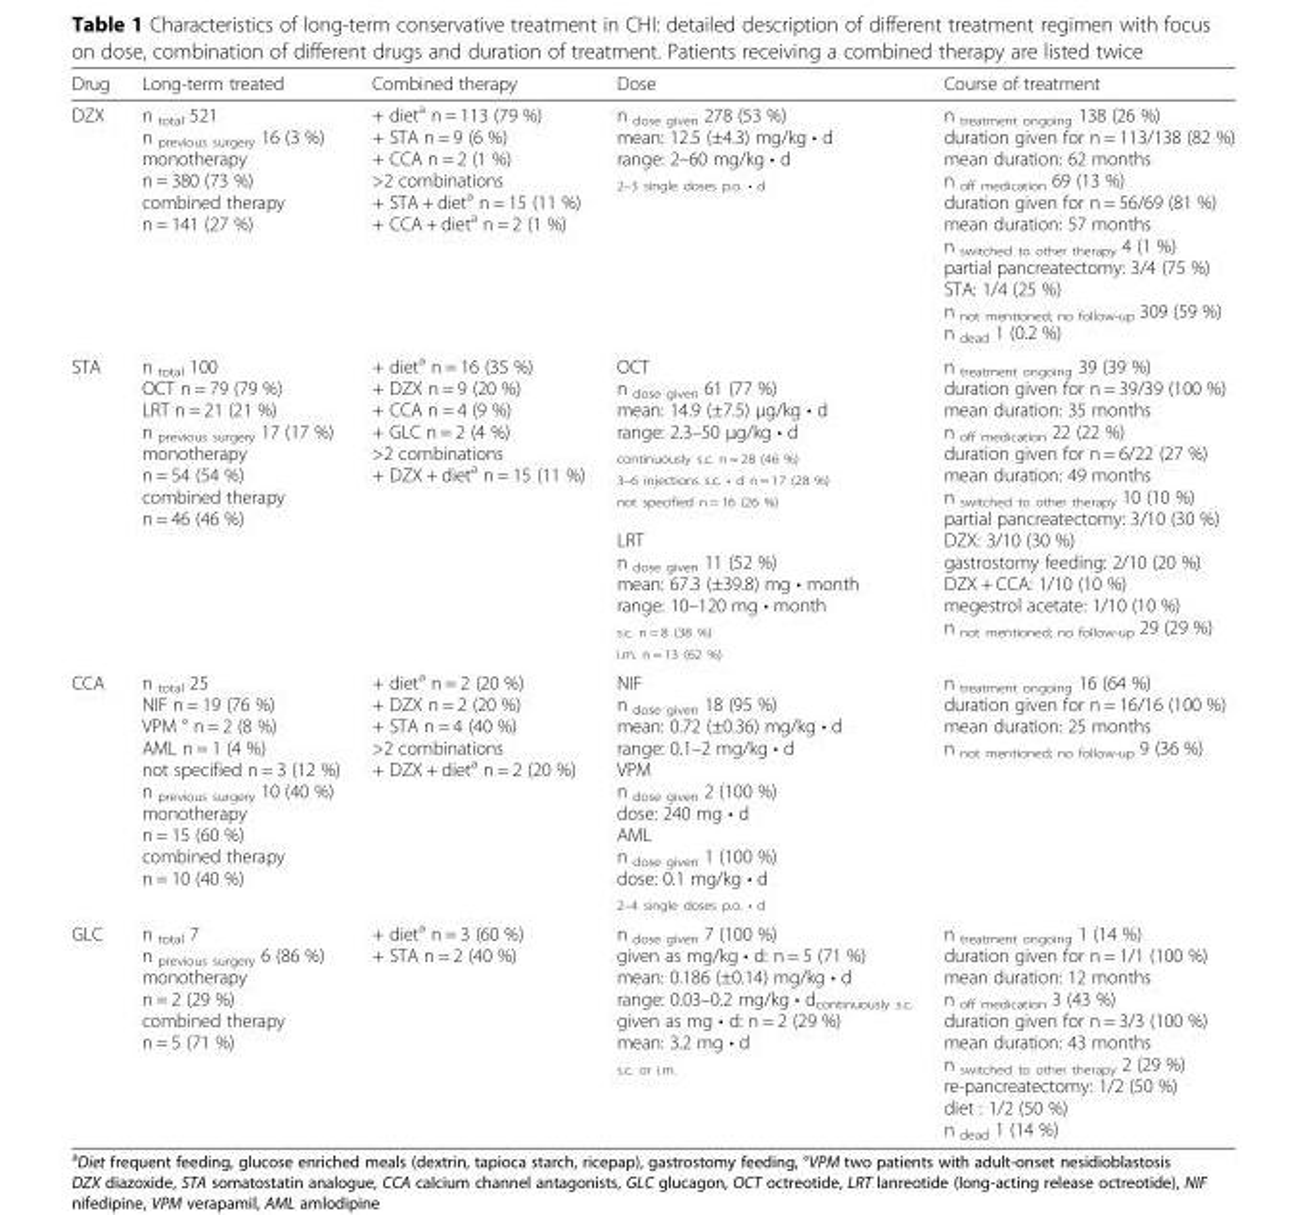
<table><thead><tr><td>Drug</td><td>Long-term treated</td><td>Combined therapy</td><td>Dose</td><td>Course of treatment</td></tr></thead><tbody><tr><td>DZX</td><td>n <sub>total</sub> 521 n <sub>previous surgery</sub> 16 (3 %) monotherapy n = 380 (73 %) combined therapy n = 141 (27 %)</td><td>+ diet<sup>a</sup> n = 113 (79 %) + STA n = 9 (6 %) + CCA n = 2 (1 %) &gt;2 combinations + STA + diet<sup>a</sup> n = 15 (11 %) + CCA + diet<sup>a</sup> n = 2 (1 %)</td><td>n <sub>dose given</sub> 278 (53 %) mean: 12.5 (±4.3) mg/kg • d range: 2–60 mg/kg • d <sub>2–3 single doses p.o. • d</sub></td><td>n <sub>treatment ongoing</sub> 138 (26 %) duration given for n = 113/138 (82 %) mean duration: 62 months n <sub>off medication</sub> 69 (13 %) duration given for n = 56/69 (81 %) mean duration: 57 months n <sub>switched to other therapy</sub> 4 (1 %) partial pancreatectomy: 3/4 (75 %) STA: 1/4 (25 %) n <sub>not mentioned; no follow-up</sub> 309 (59 %) n <sub>dead</sub> 1 (0.2 %)</td></tr><tr><td>STA</td><td>n <sub>total</sub> 100 OCT n = 79 (79 %) LRT n = 21 (21 %) n <sub>previous surgery</sub> 17 (17 %) monotherapy n = 54 (54 %) combined therapy n = 46 (46 %)</td><td>+ diet<sup>a</sup> n = 16 (35 %) + DZX n = 9 (20 %) + CCA n = 4 (9 %) + GLC n = 2 (4 %) &gt;2 combinations + DZX + diet<sup>a</sup> n = 15 (11 %)</td><td>OCT n <sub>dose given</sub> 61 (77 %) mean: 14.9 (±7.5) μg/kg • d range: 2.3–50 μg/kg • d <sub>continuously s.c. n = 28 (46 %) 3–6 injections s.c. • d n = 17 (28 %) not specified n = 16 (26 %)</sub> LRT n <sub>dose given</sub> 11 (52 %) mean: 67.3 (±39.8) mg • month range: 10–120 mg • month <sub>s.c. n = 8 (38 %) i.m. n = 13 (62 %)</sub></td><td>n <sub>treatment ongoing</sub> 39 (39 %) duration given for n = 39/39 (100 %) mean duration: 35 months n <sub>off medication</sub> 22 (22 %) duration given for n = 6/22 (27 %) mean duration: 49 months n <sub>switched to other therapy</sub> 10 (10 %) partial pancreatectomy: 3/10 (30 %) DZX: 3/10 (30 %) gastrostomy feeding: 2/10 (20 %) DZX + CCA: 1/10 (10 %) megestrol acetate: 1/10 (10 %) n <sub>not mentioned; no follow-up</sub> 29 (29 %)</td></tr><tr><td>CCA</td><td>n <sub>total</sub> 25 NIF n = 19 (76 %) VPM ° n = 2 (8 %) AML n = 1 (4 %) not specified n = 3 (12 %) n <sub>previous surgery</sub> 10 (40 %) monotherapy n = 15 (60 %) combined therapy n = 10 (40 %)</td><td>+ diet<sup>a</sup> n = 2 (20 %) + DZX n = 2 (20 %) + STA n = 4 (40 %) &gt;2 combinations + DZX + diet<sup>a</sup> n = 2 (20 %)</td><td>NIF n <sub>dose given</sub> 18 (95 %) mean: 0.72 (±0.36) mg/kg • d range: 0.1–2 mg/kg • d VPM n <sub>dose given</sub> 2 (100 %) dose: 240 mg • d AML n <sub>dose given</sub> 1 (100 %) dose: 0.1 mg/kg • d <sub>2–4 single doses p.o. • d</sub></td><td>n <sub>treatment ongoing</sub> 16 (64 %) duration given for n = 16/16 (100 %) mean duration: 25 months n <sub>not mentioned; no follow-up</sub> 9 (36 %)</td></tr><tr><td>GLC</td><td>n <sub>total</sub> 7 n <sub>previous surgery</sub> 6 (86 %) monotherapy n = 2 (29 %) combined therapy n = 5 (71 %)</td><td>+ diet<sup>a</sup> n = 3 (60 %) + STA n = 2 (40 %)</td><td>n <sub>dose given</sub> 7 (100 %) given as mg/kg • d: n = 5 (71 %) mean: 0.186 (±0.14) mg/kg • d range: 0.03–0.2 mg/kg • d<sub>continuously s.c.</sub> given as mg • d: n = 2 (29 %) mean: 3.2 mg • d <sub>s.c. or i.m.</sub></td><td>n <sub>treatment ongoing</sub> 1 (14 %) duration given for n = 1/1 (100 %) mean duration: 12 months n <sub>off medication</sub> 3 (43 %) duration given for n = 3/3 (100 %) mean duration: 43 months n <sub>switched to other therapy</sub> 2 (29 %) re-pancreatectomy: 1/2 (50 %) diet : 1/2 (50 %) n <sub>dead</sub> 1 (14 %)</td></tr></tbody></table>